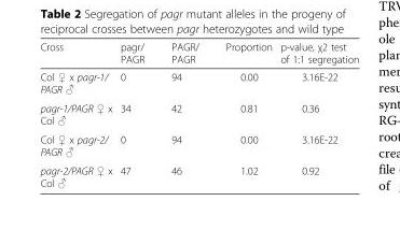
<table><thead><tr><td>Cross</td><td>pagr/ PAGR</td><td>PAGR/ PAGR</td><td>Proportion</td><td>p-value, χ2 test of 1:1 segregation</td></tr></thead><tbody><tr><td>Col ♀ x pagr-1/ PAGR ♂</td><td>0</td><td>94</td><td>0.00</td><td>3.16E-22</td></tr><tr><td>pagr-1/PAGR ♀ x Col ♂</td><td>34</td><td>42</td><td>0.81</td><td>0.36</td></tr><tr><td>Col ♀ x pagr-2/ PAGR ♂</td><td>0</td><td>94</td><td>0.00</td><td>3.16E-22</td></tr><tr><td>pagr-2/PAGR ♀ x Col ♂</td><td>47</td><td>46</td><td>1.02</td><td>0.92</td></tr></tbody></table>